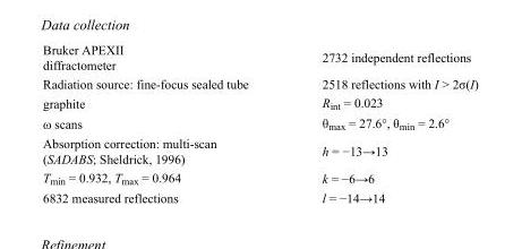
<table><tbody><tr><td>Bruker APEXII diffractometer</td><td>2732 independent reflections</td></tr><tr><td>Radiation source: fine-focus sealed tube</td><td>2518 reflections with I &gt; 2σ(I)</td></tr><tr><td>graphite</td><td>R<sub>int</sub> = 0.023</td></tr><tr><td>ω scans</td><td>θ<sub>max</sub> = 27.6°, θ<sub>min</sub> = 2.6°</td></tr><tr><td>Absorption correction: multi-scan (SADABS; Sheldrick, 1996)</td><td>h = −13→13</td></tr><tr><td>T<sub>min</sub> = 0.932, T<sub>max</sub> = 0.964</td><td>k = −6→6</td></tr><tr><td>6832 measured reflections</td><td>l = −14→14</td></tr></tbody></table>